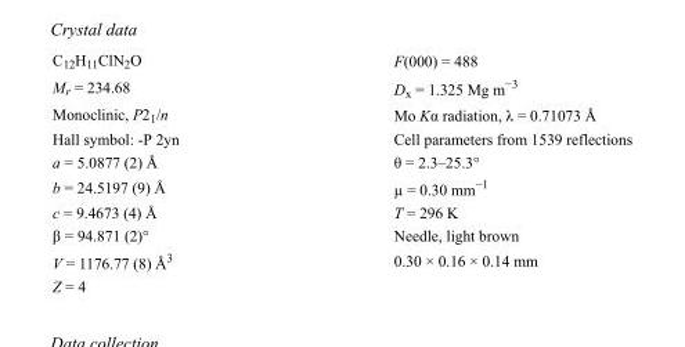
<table><tbody><tr><td>C<sub>12</sub>H<sub>11</sub>ClN<sub>2</sub>O</td><td>F(000) = 488</td></tr><tr><td>M<sub>r</sub> = 234.68</td><td>D<sub>x</sub> = 1.325 Mg m<sup>−3</sup></td></tr><tr><td>Monoclinic, P2<sub>1</sub>/n</td><td>Mo Kα radiation, λ = 0.71073 Å</td></tr><tr><td>Hall symbol: -P 2yn</td><td>Cell parameters from 1539 reflections</td></tr><tr><td>a = 5.0877 (2) Å</td><td>θ = 2.3–25.3°</td></tr><tr><td>b = 24.5197 (9) Å</td><td>µ = 0.30 mm<sup>−1</sup></td></tr><tr><td>c = 9.4673 (4) Å</td><td>T = 296 K</td></tr><tr><td>β = 94.871 (2)°</td><td>Needle, light brown</td></tr><tr><td>V = 1176.77 (8) Å<sup>3</sup></td><td>0.30 × 0.16 × 0.14 mm</td></tr><tr><td>Z = 4</td><td></td></tr></tbody></table>